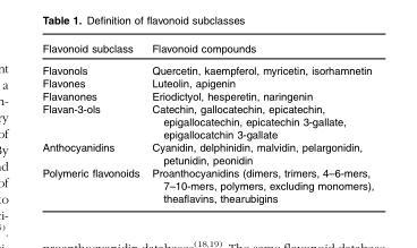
<table><thead><tr><td>Flavonoid subclass</td><td>Flavonoid compounds</td></tr></thead><tbody><tr><td>Flavonols</td><td>Quercetin, kaempferol, myricetin, isorhamnetin</td></tr><tr><td>Flavones</td><td>Luteolin, apigenin</td></tr><tr><td>Flavanones</td><td>Eriodictyol, hesperetin, naringenin</td></tr><tr><td>Flavan-3-ols</td><td>Catechin, gallocatechin, epicatechin, epigallocatechin, epicatechin 3-gallate, epigallocatchin 3-gallate</td></tr><tr><td>Anthocyanidins</td><td>Cyanidin, delphinidin, malvidin, pelargonidin, petunidin, peonidin</td></tr><tr><td>Polymeric flavonoids</td><td>Proanthocyanidins (dimers, trimers, 4–6-mers, 7–10-mers, polymers, excluding monomers), theaflavins, thearubigins</td></tr></tbody></table>